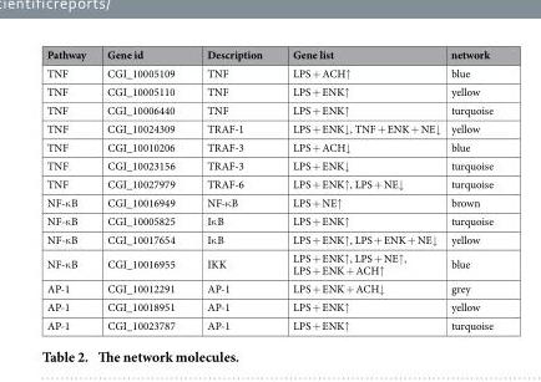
<table><thead><tr><td>Pathway</td><td>Gene id</td><td>Description</td><td>Gene list</td><td>network</td></tr></thead><tbody><tr><td>TNF</td><td>CGI_10005109</td><td>TNF</td><td>LPS + ACH↑</td><td>blue</td></tr><tr><td>TNF</td><td>CGI_10005110</td><td>TNF</td><td>LPS + ENK↑</td><td>yellow</td></tr><tr><td>TNF</td><td>CGI_10006440</td><td>TNF</td><td>LPS + ENK↑</td><td>turquoise</td></tr><tr><td>TNF</td><td>CGI_10024309</td><td>TRAF-1</td><td>LPS + ENK↓ , TNF + ENK + NE↓</td><td>yellow</td></tr><tr><td>TNF</td><td>CGI_10010206</td><td>TRAF-3</td><td>LPS + ACH↓</td><td>blue</td></tr><tr><td>TNF</td><td>CGI_10023156</td><td>TRAF-3</td><td>LPS + ENK↓</td><td>turquoise</td></tr><tr><td>TNF</td><td>CGI_10027979</td><td>TRAF-6</td><td>LPS + ENK↑ , LPS + NE↓</td><td>turquoise</td></tr><tr><td>NF-κ B</td><td>CGI_10016949</td><td>NF-κ B</td><td>LPS + NE↑</td><td>brown</td></tr><tr><td>NF-κ B</td><td>CGI_10005825</td><td>Iκ B</td><td>LPS + ENK↑</td><td>turquoise</td></tr><tr><td>NF-κ B</td><td>CGI_10017654</td><td>Iκ B</td><td>LPS + ENK↑ , LPS + ENK + NE↓</td><td>yellow</td></tr><tr><td>NF-κ B</td><td>CGI_10016955</td><td>IKK</td><td>LPS + ENK↑ , LPS + NE↑ , LPS + ENK + ACH↑</td><td>blue</td></tr><tr><td>AP-1</td><td>CGI_10012291</td><td>AP-1</td><td>LPS + ENK + ACH↓</td><td>grey</td></tr><tr><td>AP-1</td><td>CGI_10018951</td><td>AP-1</td><td>LPS + ENK↑</td><td>yellow</td></tr><tr><td>AP-1</td><td>CGI_10023787</td><td>AP-1</td><td>LPS + ENK↑</td><td>turquoise</td></tr></tbody></table>